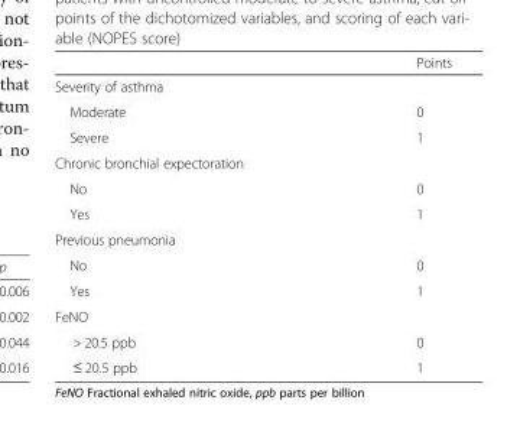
<table><thead><tr><td></td><td>Points</td></tr></thead><tbody><tr><td colspan="2">Severity of asthma</td></tr><tr><td>Moderate</td><td>0</td></tr><tr><td>Severe</td><td>1</td></tr><tr><td colspan="2">Chronic bronchial expectoration</td></tr><tr><td>No</td><td>0</td></tr><tr><td>Yes</td><td>1</td></tr><tr><td colspan="2">Previous pneumonia</td></tr><tr><td>No</td><td>0</td></tr><tr><td>Yes</td><td>1</td></tr><tr><td colspan="2">FeNO</td></tr><tr><td>&gt; 20.5 ppb</td><td>0</td></tr><tr><td>≤ 20.5 ppb</td><td>1</td></tr></tbody></table>